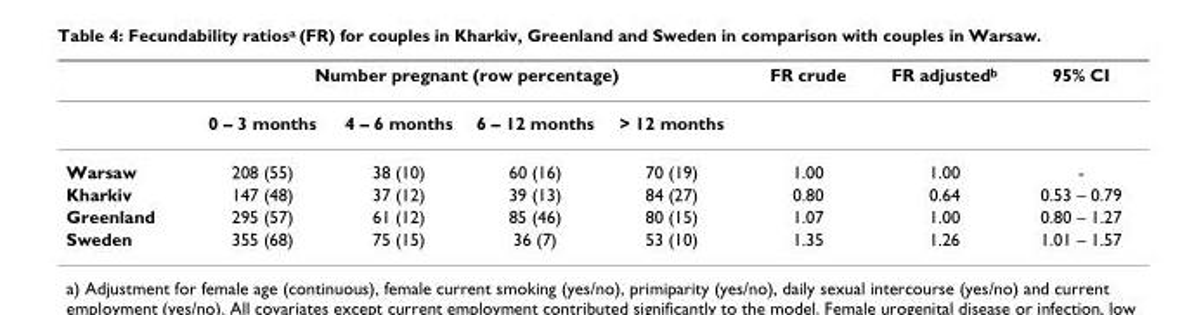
<table><thead><tr><td rowspan="2"></td><td colspan="4">Number pregnant (row percentage)</td><td rowspan="2">FR crude</td><td rowspan="2">FR adjustedb</td><td rowspan="2">95% CI</td></tr><tr><td>0 – 3 months</td><td>4 – 6 months</td><td>6 – 12 months</td><td>&gt; 12 months</td></tr></thead><tbody><tr><td>Warsaw</td><td>208 (55)</td><td>38 (10)</td><td>60 (16)</td><td>70 (19)</td><td>1.00</td><td>1.00</td><td>-</td></tr><tr><td>Kharkiv</td><td>147 (48)</td><td>37 (12)</td><td>39 (13)</td><td>84 (27)</td><td>0.80</td><td>0.64</td><td>0.53 – 0.79</td></tr><tr><td>Greenland</td><td>295 (57)</td><td>61 (12)</td><td>85 (46)</td><td>80 (15)</td><td>1.07</td><td>1.00</td><td>0.80 – 1.27</td></tr><tr><td>Sweden</td><td>355 (68)</td><td>75 (15)</td><td>36 (7)</td><td>53 (10)</td><td>1.35</td><td>1.26</td><td>1.01 – 1.57</td></tr></tbody></table>